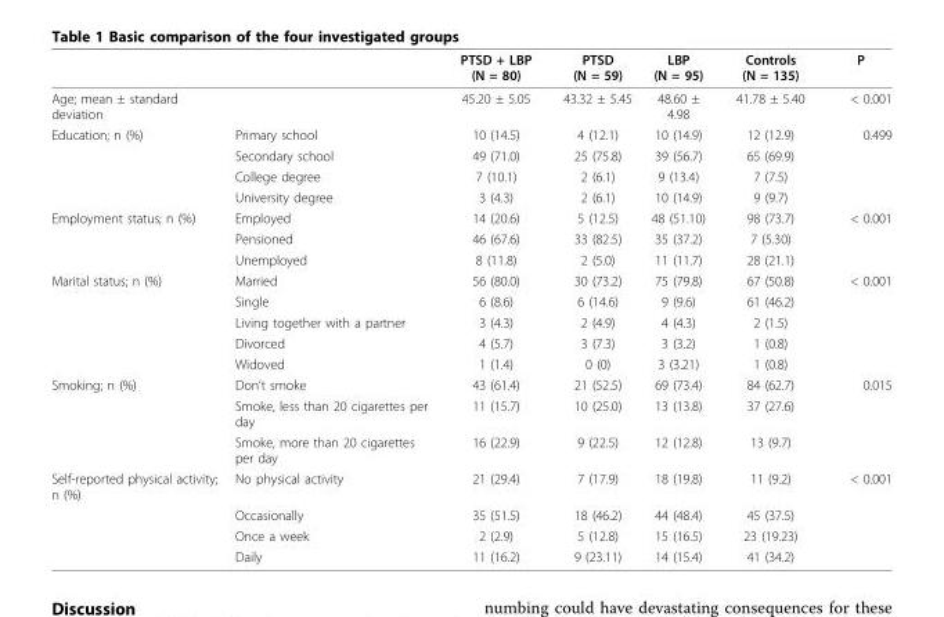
<table><thead><tr><td></td><td></td><td>PTSD + LBP (N = 80)</td><td>PTSD (N = 59)</td><td>LBP (N = 95)</td><td>Controls (N = 135)</td><td>P</td></tr></thead><tbody><tr><td>Age; mean ± standard deviation</td><td></td><td>45.20 ± 5.05</td><td>43.32 ± 5.45</td><td>48.60 ± 4.98</td><td>41.78 ± 5.40</td><td>&lt; 0.001</td></tr><tr><td rowspan="4">Education; n (%)</td><td>Primary school</td><td>10 (14.5)</td><td>4 (12.1)</td><td>10 (14.9)</td><td>12 (12.9)</td><td>0.499</td></tr><tr><td>Secondary school</td><td>49 (71.0)</td><td>25 (75.8)</td><td>39 (56.7)</td><td>65 (69.9)</td><td></td></tr><tr><td>College degree</td><td>7 (10.1)</td><td>2 (6.1)</td><td>9 (13.4)</td><td>7 (7.5)</td><td></td></tr><tr><td>University degree</td><td>3 (4.3)</td><td>2 (6.1)</td><td>10 (14.9)</td><td>9 (9.7)</td><td></td></tr><tr><td rowspan="3">Employment status; n (%)</td><td>Employed</td><td>14 (20.6)</td><td>5 (12.5)</td><td>48 (51.10)</td><td>98 (73.7)</td><td>&lt; 0.001</td></tr><tr><td>Pensioned</td><td>46 (67.6)</td><td>33 (82.5)</td><td>35 (37.2)</td><td>7 (5.30)</td><td></td></tr><tr><td>Unemployed</td><td>8 (11.8)</td><td>2 (5.0)</td><td>11 (11.7)</td><td>28 (21.1)</td><td></td></tr><tr><td rowspan="5">Marital status; n (%)</td><td>Married</td><td>56 (80.0)</td><td>30 (73.2)</td><td>75 (79.8)</td><td>67 (50.8)</td><td>&lt; 0.001</td></tr><tr><td>Single</td><td>6 (8.6)</td><td>6 (14.6)</td><td>9 (9.6)</td><td>61 (46.2)</td><td></td></tr><tr><td>Living together with a partner</td><td>3 (4.3)</td><td>2 (4.9)</td><td>4 (4.3)</td><td>2 (1.5)</td><td></td></tr><tr><td>Divorced</td><td>4 (5.7)</td><td>3 (7.3)</td><td>3 (3.2)</td><td>1 (0.8)</td><td></td></tr><tr><td>Widoved</td><td>1 (1.4)</td><td>0 (0)</td><td>3 (3.21)</td><td>1 (0.8)</td><td></td></tr><tr><td rowspan="3">Smoking; n (%)</td><td>Don’t smoke</td><td>43 (61.4)</td><td>21 (52.5)</td><td>69 (73.4)</td><td>84 (62.7)</td><td>0.015</td></tr><tr><td>Smoke, less than 20 cigarettes per day</td><td>11 (15.7)</td><td>10 (25.0)</td><td>13 (13.8)</td><td>37 (27.6)</td><td></td></tr><tr><td>Smoke, more than 20 cigarettes per day</td><td>16 (22.9)</td><td>9 (22.5)</td><td>12 (12.8)</td><td>13 (9.7)</td><td></td></tr><tr><td rowspan="4">Self-reported physical activity; n (%)</td><td>No physical activity</td><td>21 (29.4)</td><td>7 (17.9)</td><td>18 (19.8)</td><td>11 (9.2)</td><td>&lt; 0.001</td></tr><tr><td>Occasionally</td><td>35 (51.5)</td><td>18 (46.2)</td><td>44 (48.4)</td><td>45 (37.5)</td><td></td></tr><tr><td>Once a week</td><td>2 (2.9)</td><td>5 (12.8)</td><td>15 (16.5)</td><td>23 (19.23)</td><td></td></tr><tr><td>Daily</td><td>11 (16.2)</td><td>9 (23.11)</td><td>14 (15.4)</td><td>41 (34.2)</td><td></td></tr></tbody></table>